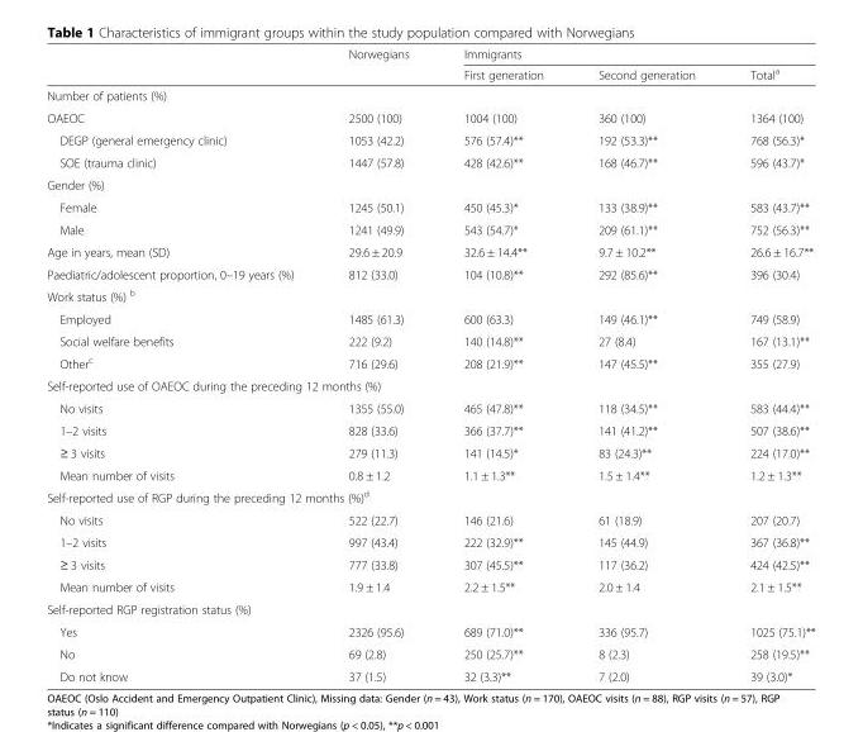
<table><thead><tr><td rowspan="2"></td><td rowspan="2">Norwegians</td><td colspan="3">Immigrants</td></tr><tr><td>First generation</td><td>Second generation</td><td>Total<sup>a</sup></td></tr></thead><tbody><tr><td colspan="5">Number of patients (%)</td></tr><tr><td>OAEOC</td><td>2500 (100)</td><td>1004 (100)</td><td>360 (100)</td><td>1364 (100)</td></tr><tr><td>DEGP (general emergency clinic)</td><td>1053 (42.2)</td><td>576 (57.4)**</td><td>192 (53.3)**</td><td>768 (56.3)*</td></tr><tr><td>SOE (trauma clinic)</td><td>1447 (57.8)</td><td>428 (42.6)**</td><td>168 (46.7)**</td><td>596 (43.7)*</td></tr><tr><td colspan="5">Gender (%)</td></tr><tr><td>Female</td><td>1245 (50.1)</td><td>450 (45.3)*</td><td>133 (38.9)**</td><td>583 (43.7)**</td></tr><tr><td>Male</td><td>1241 (49.9)</td><td>543 (54.7)*</td><td>209 (61.1)**</td><td>752 (56.3)**</td></tr><tr><td>Age in years, mean (SD)</td><td>29.6 ± 20.9</td><td>32.6 ± 14.4**</td><td>9.7 ± 10.2**</td><td>26.6 ± 16.7**</td></tr><tr><td>Paediatric/adolescent proportion, 0–19 years (%)</td><td>812 (33.0)</td><td>104 (10.8)**</td><td>292 (85.6)**</td><td>396 (30.4)</td></tr><tr><td colspan="5">Work status (%) <sup>b</sup></td></tr><tr><td>Employed</td><td>1485 (61.3)</td><td>600 (63.3)</td><td>149 (46.1)**</td><td>749 (58.9)</td></tr><tr><td>Social welfare benefits</td><td>222 (9.2)</td><td>140 (14.8)**</td><td>27 (8.4)</td><td>167 (13.1)**</td></tr><tr><td>Other<sup>c</sup></td><td>716 (29.6)</td><td>208 (21.9)**</td><td>147 (45.5)**</td><td>355 (27.9)</td></tr><tr><td colspan="5">Self-reported use of OAEOC during the preceding 12 months (%)</td></tr><tr><td>No visits</td><td>1355 (55.0)</td><td>465 (47.8)**</td><td>118 (34.5)**</td><td>583 (44.4)**</td></tr><tr><td>1–2 visits</td><td>828 (33.6)</td><td>366 (37.7)**</td><td>141 (41.2)**</td><td>507 (38.6)**</td></tr><tr><td>≥ 3 visits</td><td>279 (11.3)</td><td>141 (14.5)*</td><td>83 (24.3)**</td><td>224 (17.0)**</td></tr><tr><td>Mean number of visits</td><td>0.8 ± 1.2</td><td>1.1 ± 1.3**</td><td>1.5 ± 1.4**</td><td>1.2 ± 1.3**</td></tr><tr><td colspan="5">Self-reported use of RGP during the preceding 12 months (%)<sup>d</sup></td></tr><tr><td>No visits</td><td>522 (22.7)</td><td>146 (21.6)</td><td>61 (18.9)</td><td>207 (20.7)</td></tr><tr><td>1–2 visits</td><td>997 (43.4)</td><td>222 (32.9)**</td><td>145 (44.9)</td><td>367 (36.8)**</td></tr><tr><td>≥ 3 visits</td><td>777 (33.8)</td><td>307 (45.5)**</td><td>117 (36.2)</td><td>424 (42.5)**</td></tr><tr><td>Mean number of visits</td><td>1.9 ± 1.4</td><td>2.2 ± 1.5**</td><td>2.0 ± 1.4</td><td>2.1 ± 1.5**</td></tr><tr><td colspan="5">Self-reported RGP registration status (%)</td></tr><tr><td>Yes</td><td>2326 (95.6)</td><td>689 (71.0)**</td><td>336 (95.7)</td><td>1025 (75.1)**</td></tr><tr><td>No</td><td>69 (2.8)</td><td>250 (25.7)**</td><td>8 (2.3)</td><td>258 (19.5)**</td></tr><tr><td>Do not know</td><td>37 (1.5)</td><td>32 (3.3)**</td><td>7 (2.0)</td><td>39 (3.0)*</td></tr></tbody></table>